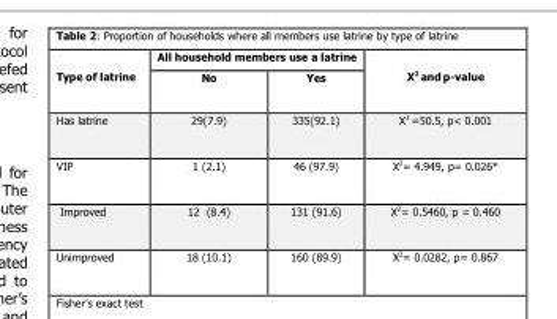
<table><thead><tr><td rowspan="2">Type of latrine</td><td colspan="2">All household members use a latrine</td><td rowspan="2">Χ2 and p-value</td></tr><tr><td>No</td><td>Yes</td></tr></thead><tbody><tr><td>Has latrine</td><td>29(7.9)</td><td>335(92.1)</td><td>Χ2 =50.5, p&lt; 0.001</td></tr><tr><td>VIP</td><td>1 (2.1)</td><td>46 (97.9)</td><td>Χ2= 4.949, p= 0.026*</td></tr><tr><td>Improved</td><td>12 (8.4)</td><td>131 (91.6)</td><td>Χ2= 0.5460, p = 0.460</td></tr><tr><td>Unimproved</td><td>18 (10.1)</td><td>160 (89.9)</td><td>Χ2= 0.0282, p= 0.867</td></tr></tbody></table>